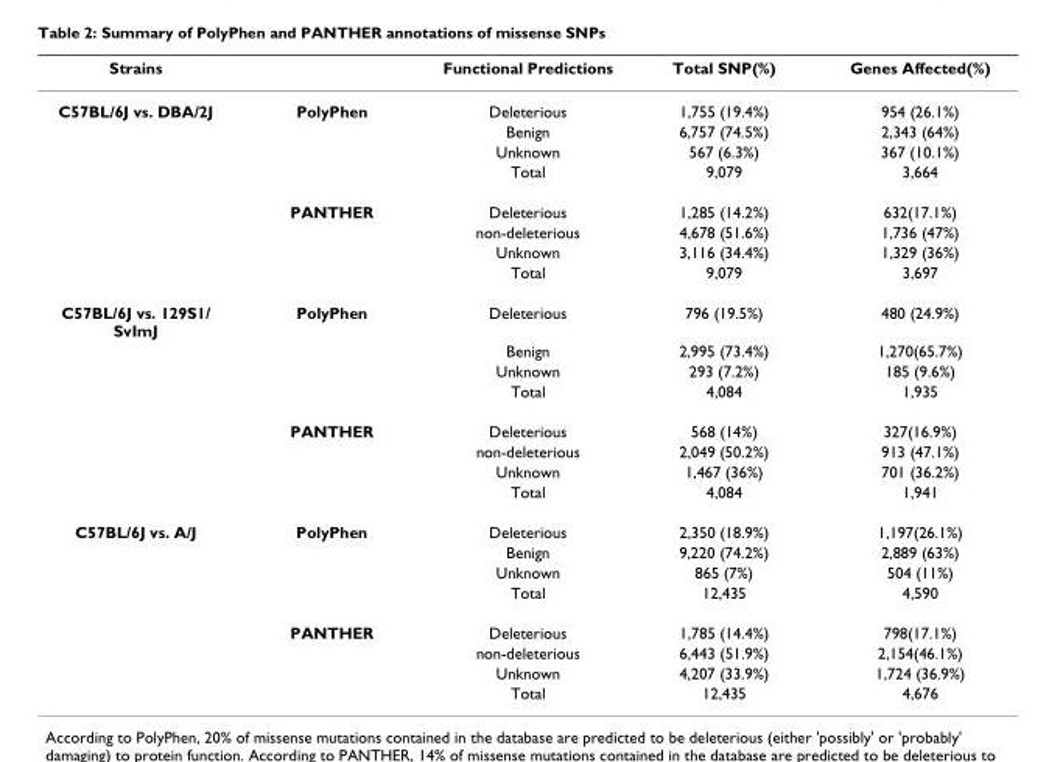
<table><thead><tr><td>Strains</td><td></td><td>Functional Predictions</td><td>Total SNP(%)</td><td>Genes Affected(%)</td></tr></thead><tbody><tr><td rowspan="8">C57BL/6J vs. DBA/2J</td><td>PolyPhen</td><td>Deleterious</td><td>1,755 (19.4%)</td><td>954 (26.1%)</td></tr><tr><td></td><td>Benign</td><td>6,757 (74.5%)</td><td>2,343 (64%)</td></tr><tr><td></td><td>Unknown</td><td>567 (6.3%)</td><td>367 (10.1%)</td></tr><tr><td></td><td>Total</td><td>9,079</td><td>3,664</td></tr><tr><td>PANTHER</td><td>Deleterious</td><td>1,285 (14.2%)</td><td>632(17.1%)</td></tr><tr><td></td><td>non-deleterious</td><td>4,678 (51.6%)</td><td>1,736 (47%)</td></tr><tr><td></td><td>Unknown</td><td>3,116 (34.4%)</td><td>1,329 (36%)</td></tr><tr><td></td><td>Total</td><td>9,079</td><td>3,697</td></tr><tr><td rowspan="8">C57BL/6J vs. 129S1/ SvImJ</td><td>PolyPhen</td><td>Deleterious</td><td>796 (19.5%)</td><td>480 (24.9%)</td></tr><tr><td></td><td>Benign</td><td>2,995 (73.4%)</td><td>1,270(65.7%)</td></tr><tr><td></td><td>Unknown</td><td>293 (7.2%)</td><td>185 (9.6%)</td></tr><tr><td></td><td>Total</td><td>4,084</td><td>1,935</td></tr><tr><td>PANTHER</td><td>Deleterious</td><td>568 (14%)</td><td>327(16.9%)</td></tr><tr><td></td><td>non-deleterious</td><td>2,049 (50.2%)</td><td>913 (47.1%)</td></tr><tr><td></td><td>Unknown</td><td>1,467 (36%)</td><td>701 (36.2%)</td></tr><tr><td></td><td>Total</td><td>4,084</td><td>1,941</td></tr><tr><td rowspan="8">C57BL/6J vs. A/J</td><td>PolyPhen</td><td>Deleterious</td><td>2,350 (18.9%)</td><td>1,197(26.1%)</td></tr><tr><td></td><td>Benign</td><td>9,220 (74.2%)</td><td>2,889 (63%)</td></tr><tr><td></td><td>Unknown</td><td>865 (7%)</td><td>504 (11%)</td></tr><tr><td></td><td>Total</td><td>12,435</td><td>4,590</td></tr><tr><td>PANTHER</td><td>Deleterious</td><td>1,785 (14.4%)</td><td>798(17.1%)</td></tr><tr><td></td><td>non-deleterious</td><td>6,443 (51.9%)</td><td>2,154(46.1%)</td></tr><tr><td></td><td>Unknown</td><td>4,207 (33.9%)</td><td>1,724 (36.9%)</td></tr><tr><td></td><td>Total</td><td>12,435</td><td>4,676</td></tr></tbody></table>